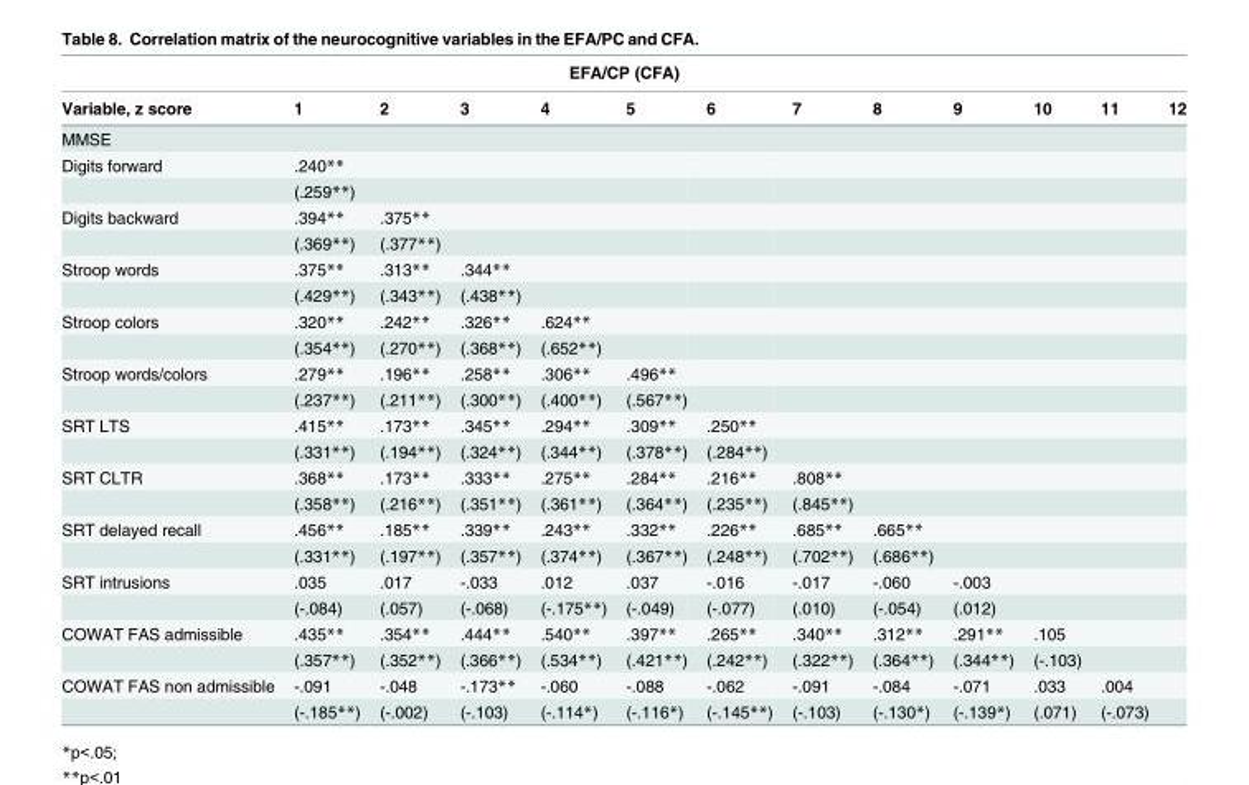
<table><thead><tr><td colspan="13">EFA/CP (CFA)</td></tr><tr><td>Variable, z score</td><td>1</td><td>2</td><td>3</td><td>4</td><td>5</td><td>6</td><td>7</td><td>8</td><td>9</td><td>10</td><td>11</td><td>12</td></tr></thead><tbody><tr><td colspan="13">MMSE</td></tr><tr><td rowspan="2">Digits forward</td><td>.240**</td><td></td><td></td><td></td><td></td><td></td><td></td><td></td><td></td><td></td><td></td><td></td></tr><tr><td>(.259**)</td><td></td><td></td><td></td><td></td><td></td><td></td><td></td><td></td><td></td><td></td><td></td></tr><tr><td rowspan="2">Digits backward</td><td>.394**</td><td>.375**</td><td></td><td></td><td></td><td></td><td></td><td></td><td></td><td></td><td></td><td></td></tr><tr><td>(.369**)</td><td>(.377**)</td><td></td><td></td><td></td><td></td><td></td><td></td><td></td><td></td><td></td><td></td></tr><tr><td rowspan="2">Stroop words</td><td>.375**</td><td>.313**</td><td>.344**</td><td></td><td></td><td></td><td></td><td></td><td></td><td></td><td></td><td></td></tr><tr><td>(.429**)</td><td>(.343**)</td><td>(.438**)</td><td></td><td></td><td></td><td></td><td></td><td></td><td></td><td></td><td></td></tr><tr><td rowspan="2">Stroop colors</td><td>.320**</td><td>.242**</td><td>.326**</td><td>.624**</td><td></td><td></td><td></td><td></td><td></td><td></td><td></td><td></td></tr><tr><td>(.354**)</td><td>(.270**)</td><td>(.368**)</td><td>(.652**)</td><td></td><td></td><td></td><td></td><td></td><td></td><td></td><td></td></tr><tr><td rowspan="2">Stroop words/colors</td><td>.279**</td><td>.196**</td><td>.258**</td><td>.306**</td><td>.496**</td><td></td><td></td><td></td><td></td><td></td><td></td><td></td></tr><tr><td>(.237**)</td><td>(.211**)</td><td>(.300**)</td><td>(.400**)</td><td>(.567**)</td><td></td><td></td><td></td><td></td><td></td><td></td><td></td></tr><tr><td rowspan="2">SRT LTS</td><td>.415**</td><td>.173**</td><td>.345**</td><td>.294**</td><td>.309**</td><td>.250**</td><td></td><td></td><td></td><td></td><td></td><td></td></tr><tr><td>(.331**)</td><td>(.194**)</td><td>(.324**)</td><td>(.344**)</td><td>(.378**)</td><td>(.284**)</td><td></td><td></td><td></td><td></td><td></td><td></td></tr><tr><td rowspan="2">SRT CLTR</td><td>.368**</td><td>.173**</td><td>.333**</td><td>.275**</td><td>.284**</td><td>.216**</td><td>.808**</td><td></td><td></td><td></td><td></td><td></td></tr><tr><td>(.358**)</td><td>(.216**)</td><td>(.351**)</td><td>(.361**)</td><td>(.364**)</td><td>(.235**)</td><td>(.845**)</td><td></td><td></td><td></td><td></td><td></td></tr><tr><td rowspan="2">SRT delayed recall</td><td>.456**</td><td>.185**</td><td>.339**</td><td>.243**</td><td>.332**</td><td>.226**</td><td>.685**</td><td>.665**</td><td></td><td></td><td></td><td></td></tr><tr><td>(.331**)</td><td>(.197**)</td><td>(.357**)</td><td>(.374**)</td><td>(.367**)</td><td>(.248**)</td><td>(.702**)</td><td>(.686**)</td><td></td><td></td><td></td><td></td></tr><tr><td rowspan="2">SRT intrusions</td><td>.035</td><td>.017</td><td>-.033</td><td>.012</td><td>.037</td><td>-.016</td><td>-.017</td><td>-.060</td><td>-.003</td><td></td><td></td><td></td></tr><tr><td>(-.084)</td><td>(.057)</td><td>(-.068)</td><td>(-.175**)</td><td>(-.049)</td><td>(-.077)</td><td>(.010)</td><td>(-.054)</td><td>(.012)</td><td></td><td></td><td></td></tr><tr><td rowspan="2">COWAT FAS admissible</td><td>.435**</td><td>.354**</td><td>.444**</td><td>.540**</td><td>.397**</td><td>.265**</td><td>.340**</td><td>.312**</td><td>.291**</td><td>.105</td><td></td><td></td></tr><tr><td>(.357**)</td><td>(.352**)</td><td>(.366**)</td><td>(.534**)</td><td>(.421**)</td><td>(.242**)</td><td>(.322**)</td><td>(.364**)</td><td>(.344**)</td><td>(-.103)</td><td></td><td></td></tr><tr><td rowspan="2">COWAT FAS non admissible</td><td>-.091</td><td>-.048</td><td>-.173**</td><td>-.060</td><td>-.088</td><td>-.062</td><td>-.091</td><td>-.084</td><td>-.071</td><td>.033</td><td>.004</td><td></td></tr><tr><td>(-.185**)</td><td>(-.002)</td><td>(-.103)</td><td>(-.114*)</td><td>(-.116*)</td><td>(-.145**)</td><td>(-.103)</td><td>(-.130*)</td><td>(-.139*)</td><td>(.071)</td><td>(-.073)</td><td></td></tr></tbody></table>